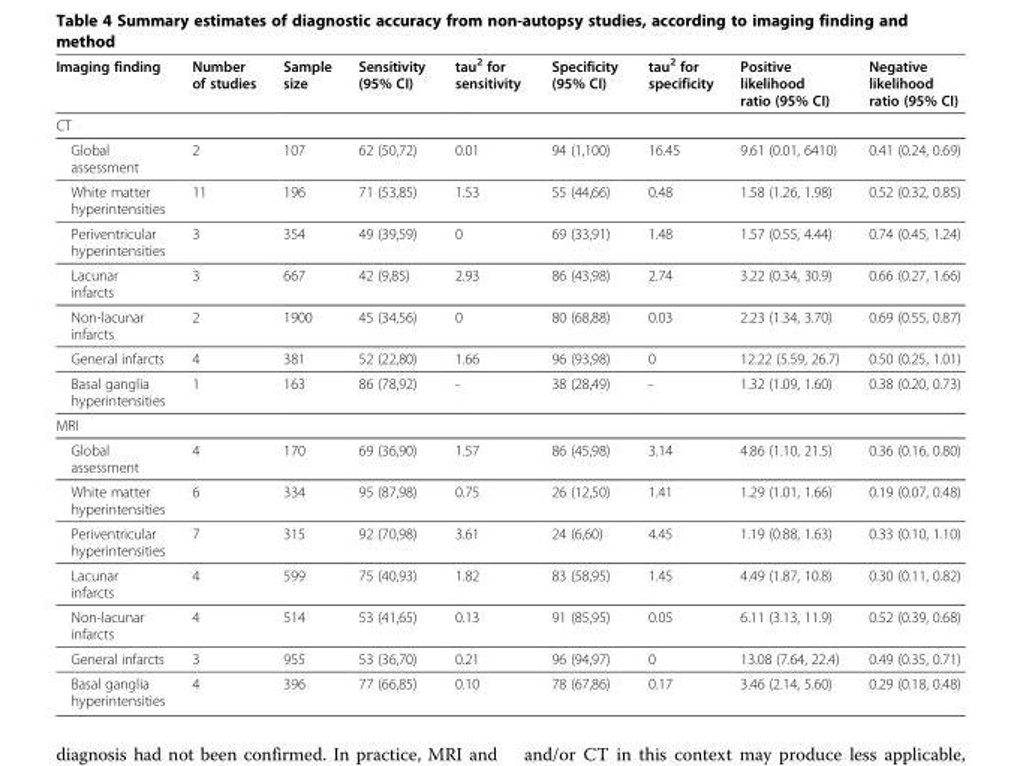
<table><thead><tr><td>Imaging finding</td><td>Number of studies</td><td>Sample size</td><td>Sensitivity (95% CI)</td><td>tau<sup>2</sup> for sensitivity</td><td>Specificity (95% CI)</td><td>tau<sup>2</sup> for specificity</td><td>Positive likelihood ratio (95% CI)</td><td>Negative likelihood ratio (95% CI)</td></tr></thead><tbody><tr><td colspan="9">CT</td></tr><tr><td>Global assessment</td><td>2</td><td>107</td><td>62 (50,72)</td><td>0.01</td><td>94 (1,100)</td><td>16.45</td><td>9.61 (0.01, 6410)</td><td>0.41 (0.24, 0.69)</td></tr><tr><td>White matter hyperintensities</td><td>11</td><td>196</td><td>71 (53,85)</td><td>1.53</td><td>55 (44,66)</td><td>0.48</td><td>1.58 (1.26, 1.98)</td><td>0.52 (0.32, 0.85)</td></tr><tr><td>Periventricular hyperintensities</td><td>3</td><td>354</td><td>49 (39,59)</td><td>0</td><td>69 (33,91)</td><td>1.48</td><td>1.57 (0.55, 4.44)</td><td>0.74 (0.45, 1.24)</td></tr><tr><td>Lacunar infarcts</td><td>3</td><td>667</td><td>42 (9,85)</td><td>2.93</td><td>86 (43,98)</td><td>2.74</td><td>3.22 (0.34, 30.9)</td><td>0.66 (0.27, 1.66)</td></tr><tr><td>Non-lacunar infarcts</td><td>2</td><td>1900</td><td>45 (34,56)</td><td>0</td><td>80 (68,88)</td><td>0.03</td><td>2.23 (1.34, 3.70)</td><td>0.69 (0.55, 0.87)</td></tr><tr><td>General infarcts</td><td>4</td><td>381</td><td>52 (22,80)</td><td>1.66</td><td>96 (93,98)</td><td>0</td><td>12.22 (5.59, 26.7)</td><td>0.50 (0.25, 1.01)</td></tr><tr><td>Basal ganglia hyperintensities</td><td>1</td><td>163</td><td>86 (78,92)</td><td>-</td><td>38 (28,49)</td><td>-</td><td>1.32 (1.09, 1.60)</td><td>0.38 (0.20, 0.73)</td></tr><tr><td colspan="9">MRI</td></tr><tr><td>Global assessment</td><td>4</td><td>170</td><td>69 (36,90)</td><td>1.57</td><td>86 (45,98)</td><td>3.14</td><td>4.86 (1.10, 21.5)</td><td>0.36 (0.16, 0.80)</td></tr><tr><td>White matter hyperintensities</td><td>6</td><td>334</td><td>95 (87,98)</td><td>0.75</td><td>26 (12,50)</td><td>1.41</td><td>1.29 (1.01, 1.66)</td><td>0.19 (0.07, 0.48)</td></tr><tr><td>Periventricular hyperintensities</td><td>7</td><td>315</td><td>92 (70,98)</td><td>3.61</td><td>24 (6,60)</td><td>4.45</td><td>1.19 (0.88, 1.63)</td><td>0.33 (0.10, 1.10)</td></tr><tr><td>Lacunar infarcts</td><td>4</td><td>599</td><td>75 (40,93)</td><td>1.82</td><td>83 (58,95)</td><td>1.45</td><td>4.49 (1.87, 10.8)</td><td>0.30 (0.11, 0.82)</td></tr><tr><td>Non-lacunar infarcts</td><td>4</td><td>514</td><td>53 (41,65)</td><td>0.13</td><td>91 (85,95)</td><td>0.05</td><td>6.11 (3.13, 11.9)</td><td>0.52 (0.39, 0.68)</td></tr><tr><td>General infarcts</td><td>3</td><td>955</td><td>53 (36,70)</td><td>0.21</td><td>96 (94,97)</td><td>0</td><td>13.08 (7.64, 22.4)</td><td>0.49 (0.35, 0.71)</td></tr><tr><td>Basal ganglia hyperintensities</td><td>4</td><td>396</td><td>77 (66,85)</td><td>0.10</td><td>78 (67,86)</td><td>0.17</td><td>3.46 (2.14, 5.60)</td><td>0.29 (0.18, 0.48)</td></tr></tbody></table>